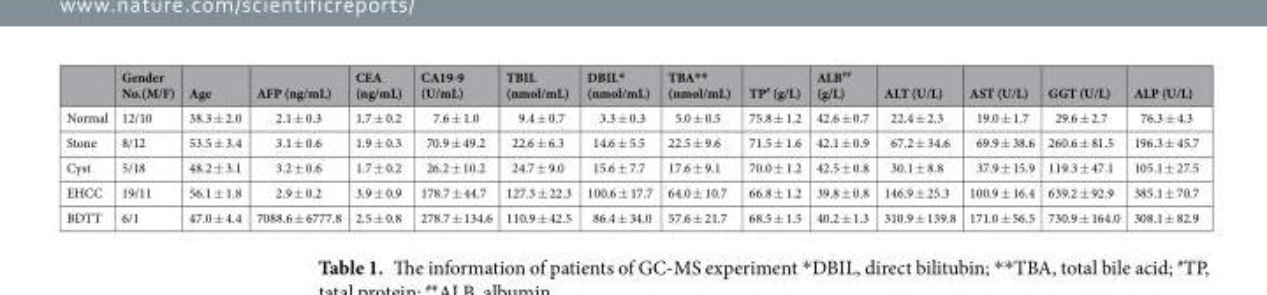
<table><thead><tr><td></td><td>Gender No.(M/F)</td><td>Age</td><td>AFP (ng/mL)</td><td>CEA (ng/mL)</td><td>CA19-9 (U/mL)</td><td>TBIL (nmol/mL)</td><td>DBIL* (nmol/mL)</td><td>TBA** (nmol/mL)</td><td>TP<sup>#</sup> (g/L)</td><td>ALB<sup>##</sup> (g/L)</td><td>ALT (U/L)</td><td>AST (U/L)</td><td>GGT (U/L)</td><td>ALP (U/L)</td></tr></thead><tbody><tr><td>Normal</td><td>12/10</td><td>38.3 ± 2.0</td><td>2.1 ± 0.3</td><td>1.7 ± 0.2</td><td>7.6 ± 1.0</td><td>9.4 ± 0.7</td><td>3.3 ± 0.3</td><td>5.0 ± 0.5</td><td>75.8 ± 1.2</td><td>42.6 ± 0.7</td><td>22.4 ± 2.3</td><td>19.0 ± 1.7</td><td>29.6 ± 2.7</td><td>76.3 ± 4.3</td></tr><tr><td>Stone</td><td>8/12</td><td>53.5 ± 3.4</td><td>3.1 ± 0.6</td><td>1.9 ± 0.3</td><td>70.9 ± 49.2</td><td>22.6 ± 6.3</td><td>14.6 ± 5.5</td><td>22.5 ± 9.6</td><td>71.5 ± 1.6</td><td>42.1 ± 0.9</td><td>67.2 ± 34.6</td><td>69.9 ± 38.6</td><td>260.6 ± 81.5</td><td>196.3 ± 45.7</td></tr><tr><td>Cyst</td><td>5/18</td><td>48.2 ± 3.1</td><td>3.2 ± 0.6</td><td>1.7 ± 0.2</td><td>26.2 ± 10.2</td><td>24.7 ± 9.0</td><td>15.6 ± 7.7</td><td>17.6 ± 9.1</td><td>70.0 ± 1.2</td><td>42.5 ± 0.8</td><td>30.1 ± 8.8</td><td>37.9 ± 15.9</td><td>119.3 ± 47.1</td><td>105.1 ± 27.5</td></tr><tr><td>EHCC</td><td>19/11</td><td>56.1 ± 1.8</td><td>2.9 ± 0.2</td><td>3.9 ± 0.9</td><td>178.7 ± 44.7</td><td>127.3 ± 22.3</td><td>100.6 ± 17.7</td><td>64.0 ± 10.7</td><td>66.8 ± 1.2</td><td>39.8 ± 0.8</td><td>146.9 ± 25.3</td><td>100.9 ± 16.4</td><td>639.2 ± 92.9</td><td>385.1 ± 70.7</td></tr><tr><td>BDTT</td><td>6/1</td><td>47.0 ± 4.4</td><td>7088.6 ± 6777.8</td><td>2.5 ± 0.8</td><td>278.7 ± 134.6</td><td>110.9 ± 42.5</td><td>86.4 ± 34.0</td><td>57.6 ± 21.7</td><td>68.5 ± 1.5</td><td>40.2 ± 1.3</td><td>310.9 ± 139.8</td><td>171.0 ± 56.5</td><td>730.9 ± 164.0</td><td>308.1 ± 82.9</td></tr></tbody></table>